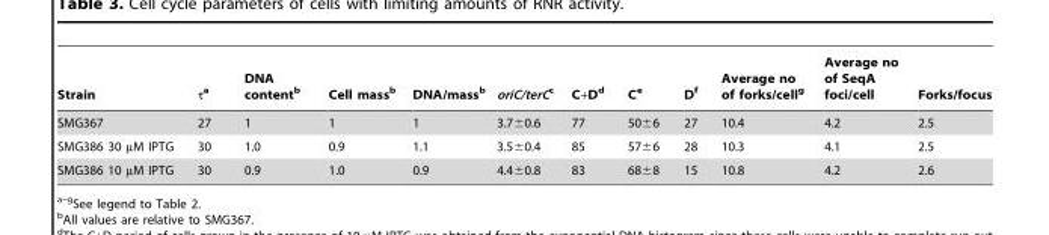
<table><thead><tr><td>Strain</td><td>τ<sup>a</sup></td><td>DNA content<sup>b</sup></td><td>Cell mass<sup>b</sup></td><td>DNA/mass<sup>b</sup></td><td>oriC/terC<sup>c</sup></td><td>C+D<sup>d</sup></td><td>C<sup>e</sup></td><td>D<sup>f</sup></td><td>Average no of forks/cell<sup>g</sup></td><td>Average no of SeqA foci/cell</td><td>Forks/focus</td></tr></thead><tbody><tr><td>SMG367</td><td>27</td><td>1</td><td>1</td><td>1</td><td>3.7±0.6</td><td>77</td><td>50±6</td><td>27</td><td>10.4</td><td>4.2</td><td>2.5</td></tr><tr><td>SMG386 30 µM IPTG</td><td>30</td><td>1.0</td><td>0.9</td><td>1.1</td><td>3.5±0.4</td><td>85</td><td>57±6</td><td>28</td><td>10.3</td><td>4.1</td><td>2.5</td></tr><tr><td>SMG386 10 µM IPTG</td><td>30</td><td>0.9</td><td>1.0</td><td>0.9</td><td>4.4±0.8</td><td>83</td><td>68±8</td><td>15</td><td>10.8</td><td>4.2</td><td>2.6</td></tr></tbody></table>